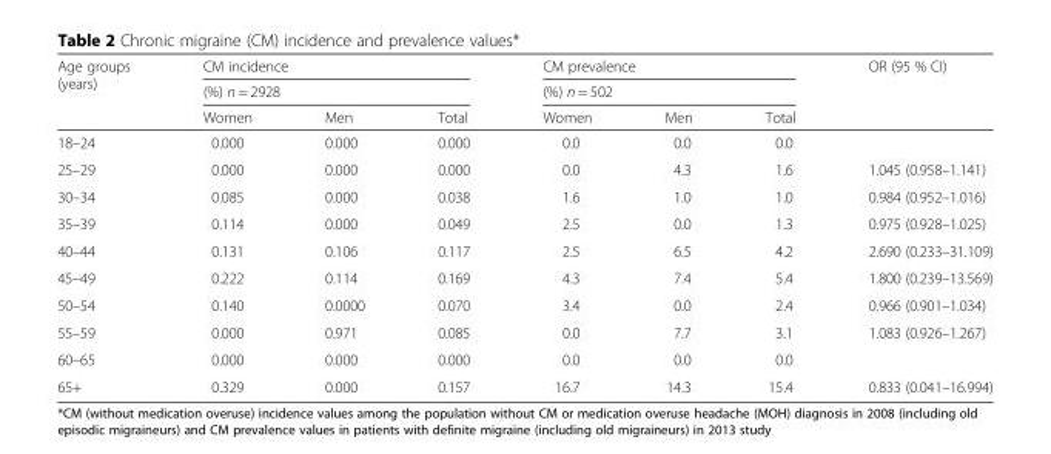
<table><thead><tr><td rowspan="3">Age groups (years)</td><td rowspan="2" colspan="3">CM incidence (%) n = 2928</td><td rowspan="2" colspan="3">CM prevalence (%) n = 502</td><td rowspan="3">OR (95 % CI)</td></tr><tr></tr><tr><td>Women</td><td>Men</td><td>Total</td><td>Women</td><td>Men</td><td>Total</td></tr></thead><tbody><tr><td>18–24</td><td>0.000</td><td>0.000</td><td>0.000</td><td>0.0</td><td>0.0</td><td>0.0</td><td></td></tr><tr><td>25–29</td><td>0.000</td><td>0.000</td><td>0.000</td><td>0.0</td><td>4.3</td><td>1.6</td><td>1.045 (0.958–1.141)</td></tr><tr><td>30–34</td><td>0.085</td><td>0.000</td><td>0.038</td><td>1.6</td><td>1.0</td><td>1.0</td><td>0.984 (0.952–1.016)</td></tr><tr><td>35–39</td><td>0.114</td><td>0.000</td><td>0.049</td><td>2.5</td><td>0.0</td><td>1.3</td><td>0.975 (0.928–1.025)</td></tr><tr><td>40–44</td><td>0.131</td><td>0.106</td><td>0.117</td><td>2.5</td><td>6.5</td><td>4.2</td><td>2.690 (0.233–31.109)</td></tr><tr><td>45–49</td><td>0.222</td><td>0.114</td><td>0.169</td><td>4.3</td><td>7.4</td><td>5.4</td><td>1.800 (0.239–13.569)</td></tr><tr><td>50–54</td><td>0.140</td><td>0.0000</td><td>0.070</td><td>3.4</td><td>0.0</td><td>2.4</td><td>0.966 (0.901–1.034)</td></tr><tr><td>55–59</td><td>0.000</td><td>0.971</td><td>0.085</td><td>0.0</td><td>7.7</td><td>3.1</td><td>1.083 (0.926–1.267)</td></tr><tr><td>60–65</td><td>0.000</td><td>0.000</td><td>0.000</td><td>0.0</td><td>0.0</td><td>0.0</td><td></td></tr><tr><td>65+</td><td>0.329</td><td>0.000</td><td>0.157</td><td>16.7</td><td>14.3</td><td>15.4</td><td>0.833 (0.041–16.994)</td></tr></tbody></table>